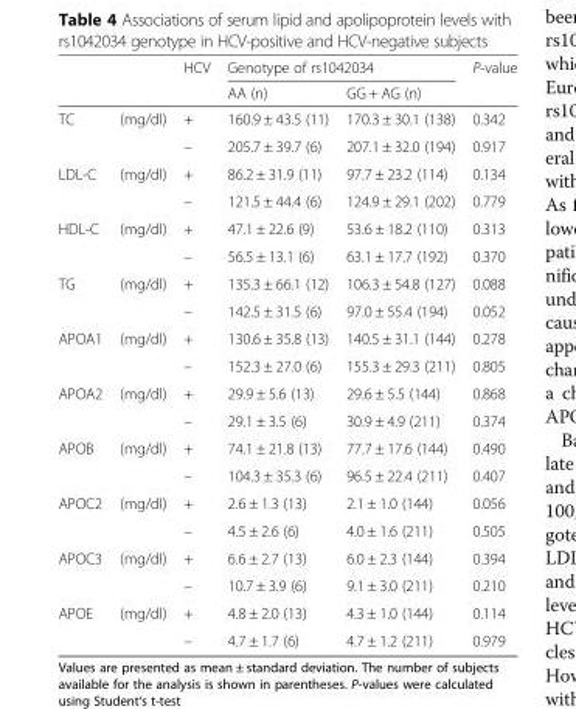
<table><thead><tr><td rowspan="2"></td><td rowspan="2"></td><td rowspan="2">HCV</td><td colspan="2">Genotype of rs1042034</td><td rowspan="2">P-value</td></tr><tr><td>AA (n)</td><td>GG + AG (n)</td></tr></thead><tbody><tr><td rowspan="2">TC</td><td rowspan="2">(mg/dl)</td><td>+</td><td>160.9 ± 43.5 (11)</td><td>170.3 ± 30.1 (138)</td><td>0.342</td></tr><tr><td>–</td><td>205.7 ± 39.7 (6)</td><td>207.1 ± 32.0 (194)</td><td>0.917</td></tr><tr><td rowspan="2">LDL-C</td><td rowspan="2">(mg/dl)</td><td>+</td><td>86.2 ± 31.9 (11)</td><td>97.7 ± 23.2 (114)</td><td>0.134</td></tr><tr><td>–</td><td>121.5 ± 44.4 (6)</td><td>124.9 ± 29.1 (202)</td><td>0.779</td></tr><tr><td rowspan="2">HDL-C</td><td rowspan="2">(mg/dl)</td><td>+</td><td>47.1 ± 22.6 (9)</td><td>53.6 ± 18.2 (110)</td><td>0.313</td></tr><tr><td>–</td><td>56.5 ± 13.1 (6)</td><td>63.1 ± 17.7 (192)</td><td>0.370</td></tr><tr><td rowspan="2">TG</td><td rowspan="2">(mg/dl)</td><td>+</td><td>135.3 ± 66.1 (12)</td><td>106.3 ± 54.8 (127)</td><td>0.088</td></tr><tr><td>–</td><td>142.5 ± 31.5 (6)</td><td>97.0 ± 55.4 (194)</td><td>0.052</td></tr><tr><td rowspan="2">APOA1</td><td rowspan="2">(mg/dl)</td><td>+</td><td>130.6 ± 35.8 (13)</td><td>140.5 ± 31.1 (144)</td><td>0.278</td></tr><tr><td>–</td><td>152.3 ± 27.0 (6)</td><td>155.3 ± 29.3 (211)</td><td>0.805</td></tr><tr><td rowspan="2">APOA2</td><td rowspan="2">(mg/dl)</td><td>+</td><td>29.9 ± 5.6 (13)</td><td>29.6 ± 5.5 (144)</td><td>0.868</td></tr><tr><td>–</td><td>29.1 ± 3.5 (6)</td><td>30.9 ± 4.9 (211)</td><td>0.374</td></tr><tr><td rowspan="2">APOB</td><td rowspan="2">(mg/dl)</td><td>+</td><td>74.1 ± 21.8 (13)</td><td>77.7 ± 17.6 (144)</td><td>0.490</td></tr><tr><td>–</td><td>104.3 ± 35.3 (6)</td><td>96.5 ± 22.4 (211)</td><td>0.407</td></tr><tr><td rowspan="2">APOC2</td><td rowspan="2">(mg/dl)</td><td>+</td><td>2.6 ± 1.3 (13)</td><td>2.1 ± 1.0 (144)</td><td>0.056</td></tr><tr><td>–</td><td>4.5 ± 2.6 (6)</td><td>4.0 ± 1.6 (211)</td><td>0.505</td></tr><tr><td rowspan="2">APOC3</td><td rowspan="2">(mg/dl)</td><td>+</td><td>6.6 ± 2.7 (13)</td><td>6.0 ± 2.3 (144)</td><td>0.394</td></tr><tr><td>–</td><td>10.7 ± 3.9 (6)</td><td>9.1 ± 3.0 (211)</td><td>0.210</td></tr><tr><td rowspan="2">APOE</td><td rowspan="2">(mg/dl)</td><td>+</td><td>4.8 ± 2.0 (13)</td><td>4.3 ± 1.0 (144)</td><td>0.114</td></tr><tr><td>–</td><td>4.7 ± 1.7 (6)</td><td>4.7 ± 1.2 (211)</td><td>0.979</td></tr></tbody></table>